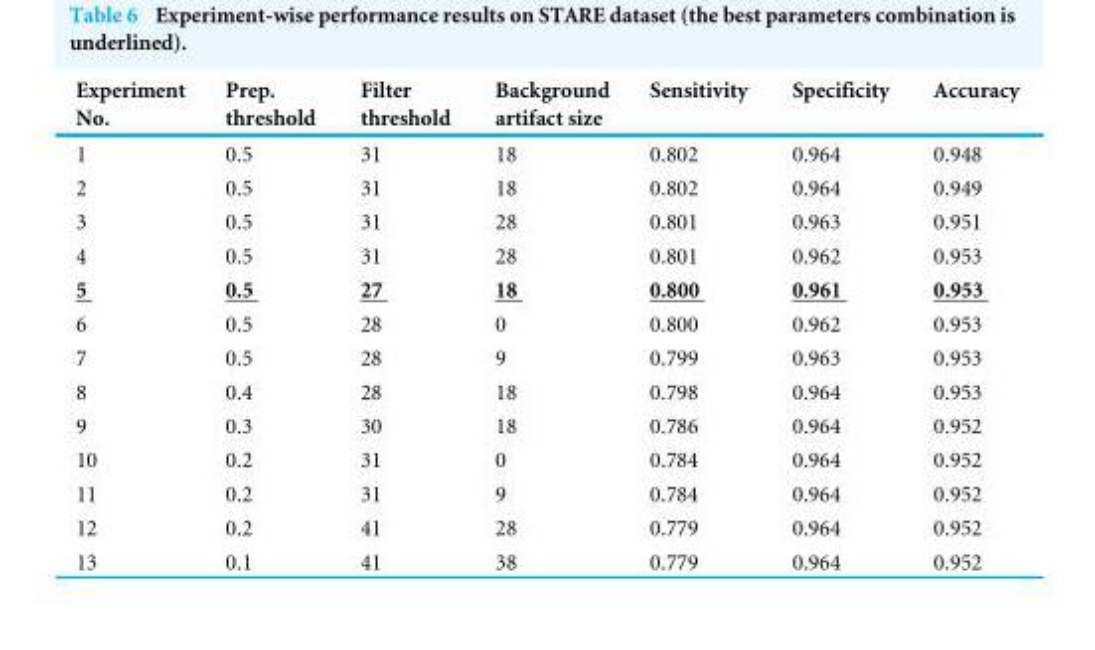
<table><thead><tr><td>Experiment No.</td><td>Prep. threshold</td><td>Filter threshold</td><td>Background artifact size</td><td>Sensitivity</td><td>Specificity</td><td>Accuracy</td></tr></thead><tbody><tr><td>1</td><td>0.5</td><td>31</td><td>18</td><td>0.802</td><td>0.964</td><td>0.948</td></tr><tr><td>2</td><td>0.5</td><td>31</td><td>18</td><td>0.802</td><td>0.964</td><td>0.949</td></tr><tr><td>3</td><td>0.5</td><td>31</td><td>28</td><td>0.801</td><td>0.963</td><td>0.951</td></tr><tr><td>4</td><td>0.5</td><td>31</td><td>28</td><td>0.801</td><td>0.962</td><td>0.953</td></tr><tr><td>5</td><td>0.5</td><td>27</td><td>18</td><td>0.800</td><td>0.961</td><td>0.953</td></tr><tr><td>6</td><td>0.5</td><td>28</td><td>0</td><td>0.800</td><td>0.962</td><td>0.953</td></tr><tr><td>7</td><td>0.5</td><td>28</td><td>9</td><td>0.799</td><td>0.963</td><td>0.953</td></tr><tr><td>8</td><td>0.4</td><td>28</td><td>18</td><td>0.798</td><td>0.964</td><td>0.953</td></tr><tr><td>9</td><td>0.3</td><td>30</td><td>18</td><td>0.786</td><td>0.964</td><td>0.952</td></tr><tr><td>10</td><td>0.2</td><td>31</td><td>0</td><td>0.784</td><td>0.964</td><td>0.952</td></tr><tr><td>11</td><td>0.2</td><td>31</td><td>9</td><td>0.784</td><td>0.964</td><td>0.952</td></tr><tr><td>12</td><td>0.2</td><td>41</td><td>28</td><td>0.779</td><td>0.964</td><td>0.952</td></tr><tr><td>13</td><td>0.1</td><td>41</td><td>38</td><td>0.779</td><td>0.964</td><td>0.952</td></tr></tbody></table>